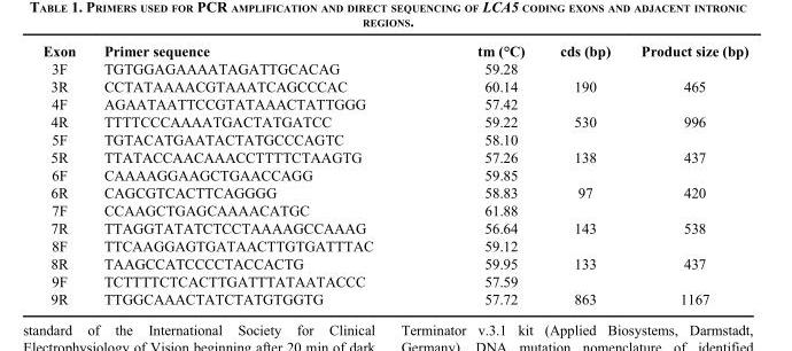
<table><thead><tr><td>Exon</td><td>Primer sequence</td><td>tm (°C)</td><td>cds (bp)</td><td>Product size (bp)</td></tr></thead><tbody><tr><td>3F</td><td>TGTGGAGAAAATAGATTGCACAG</td><td>59.28</td><td></td><td></td></tr><tr><td>3R</td><td>CCTATAAAACGTAAATCAGCCCAC</td><td>60.14</td><td>190</td><td>465</td></tr><tr><td>4F</td><td>AGAATAATTCCGTATAAACTATTGGG</td><td>57.42</td><td></td><td></td></tr><tr><td>4R</td><td>TTTTCCCAAAATGACTATGATCC</td><td>59.22</td><td>530</td><td>996</td></tr><tr><td>5F</td><td>TGTACATGAATACTATGCCCAGTC</td><td>58.10</td><td></td><td></td></tr><tr><td>5R</td><td>TTATACCAACAAACCTTTTCTAAGTG</td><td>57.26</td><td>138</td><td>437</td></tr><tr><td>6F</td><td>CAAAAGGAAGCTGAACCAGG</td><td>59.85</td><td></td><td></td></tr><tr><td>6R</td><td>CAGCGTCACTTCAGGGG</td><td>58.83</td><td>97</td><td>420</td></tr><tr><td>7F</td><td>CCAAGCTGAGCAAAACATGC</td><td>61.88</td><td></td><td></td></tr><tr><td>7R</td><td>TTAGGTATATCTCCTAAAAGCCAAAG</td><td>56.64</td><td>143</td><td>538</td></tr><tr><td>8F</td><td>TTCAAGGAGTGATAACTTGTGATTTAC</td><td>59.12</td><td></td><td></td></tr><tr><td>8R</td><td>TAAGCCATCCCCTACCACTG</td><td>59.95</td><td>133</td><td>437</td></tr><tr><td>9F</td><td>TCTTTTCTCACTTGATTTATAATACCC</td><td>57.59</td><td></td><td></td></tr><tr><td>9R</td><td>TTGGCAAACTATCTATGTGGTG</td><td>57.72</td><td>863</td><td>1167</td></tr></tbody></table>